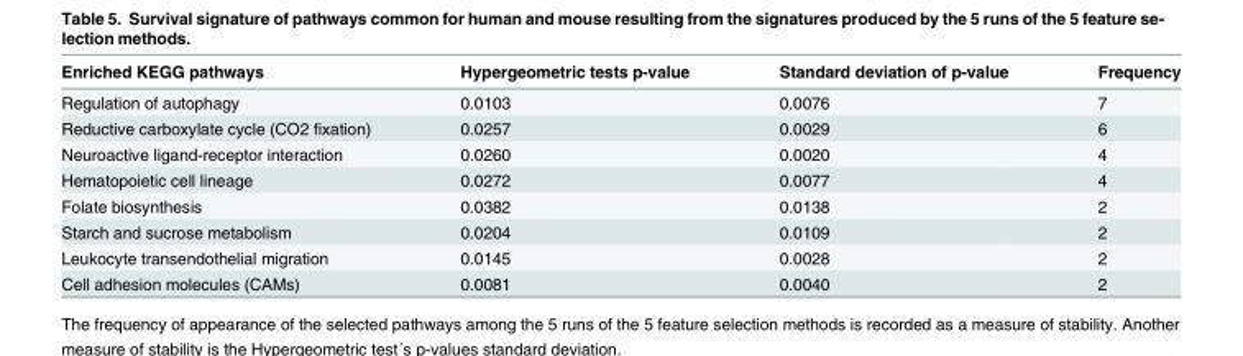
<table><thead><tr><td>Enriched KEGG pathways</td><td>Hypergeometric tests p-value</td><td>Standard deviation of p-value</td><td>Frequency</td></tr></thead><tbody><tr><td>Regulation of autophagy</td><td>0.0103</td><td>0.0076</td><td>7</td></tr><tr><td>Reductive carboxylate cycle (CO2 fixation)</td><td>0.0257</td><td>0.0029</td><td>6</td></tr><tr><td>Neuroactive ligand-receptor interaction</td><td>0.0260</td><td>0.0020</td><td>4</td></tr><tr><td>Hematopoietic cell lineage</td><td>0.0272</td><td>0.0077</td><td>4</td></tr><tr><td>Folate biosynthesis</td><td>0.0382</td><td>0.0138</td><td>2</td></tr><tr><td>Starch and sucrose metabolism</td><td>0.0204</td><td>0.0109</td><td>2</td></tr><tr><td>Leukocyte transendothelial migration</td><td>0.0145</td><td>0.0028</td><td>2</td></tr><tr><td>Cell adhesion molecules (CAMs)</td><td>0.0081</td><td>0.0040</td><td>2</td></tr></tbody></table>